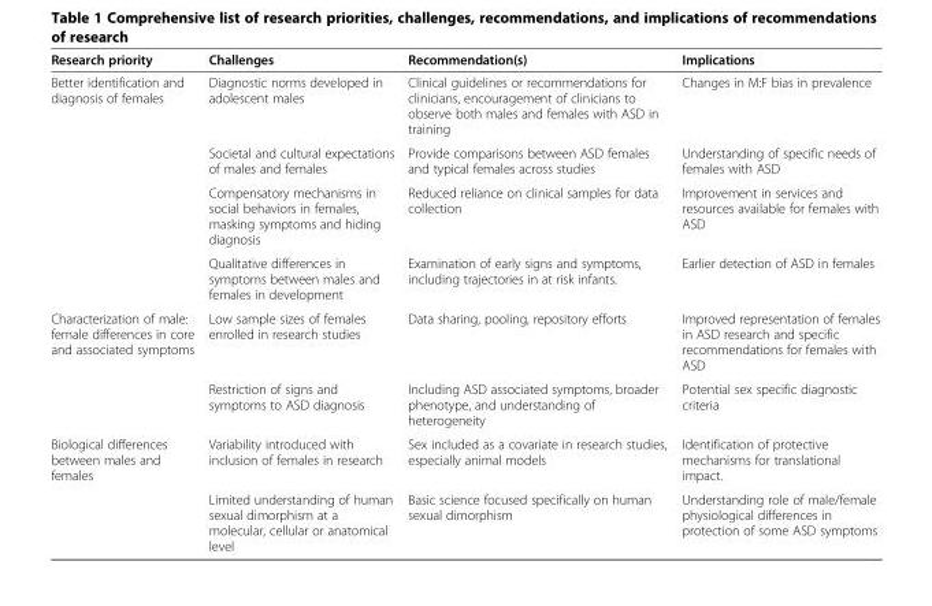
<table><thead><tr><td>Research priority</td><td>Challenges</td><td>Recommendation(s)</td><td>Implications</td></tr></thead><tbody><tr><td rowspan="4">Better identification and diagnosis of females</td><td>Diagnostic norms developed in adolescent males</td><td>Clinical guidelines or recommendations for clinicians, encouragement of clinicians to observe both males and females with ASD in training</td><td>Changes in M:F bias in prevalence</td></tr><tr><td>Societal and cultural expectations of males and females</td><td>Provide comparisons between ASD females and typical females across studies</td><td>Understanding of specific needs of females with ASD</td></tr><tr><td>Compensatory mechanisms in social behaviors in females, masking symptoms and hiding diagnosis</td><td>Reduced reliance on clinical samples for data collection</td><td>Improvement in services and resources available for females with ASD</td></tr><tr><td>Qualitative differences in symptoms between males and females in development</td><td>Examination of early signs and symptoms, including trajectories in at risk infants.</td><td>Earlier detection of ASD in females</td></tr><tr><td rowspan="2">Characterization of male: female differences in core and associated symptoms</td><td>Low sample sizes of females enrolled in research studies</td><td>Data sharing, pooling, repository efforts</td><td>Improved representation of females in ASD research and specific recommendations for females with ASD</td></tr><tr><td>Restriction of signs and symptoms to ASD diagnosis</td><td>Including ASD associated symptoms, broader phenotype, and understanding of heterogeneity</td><td>Potential sex specific diagnostic criteria</td></tr><tr><td rowspan="2">Biological differences between males and females</td><td>Variability introduced with inclusion of females in research</td><td>Sex included as a covariate in research studies, especially animal models</td><td>Identification of protective mechanisms for translational impact.</td></tr><tr><td>Limited understanding of human sexual dimorphism at a molecular, cellular or anatomical level</td><td>Basic science focused specifically on human sexual dimorphism</td><td>Understanding role of male/female physiological differences in protection of some ASD symptoms</td></tr></tbody></table>